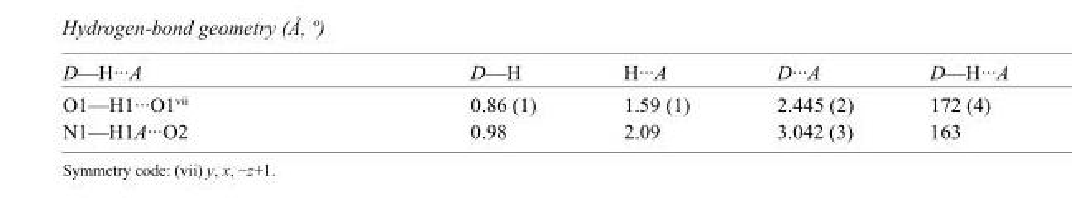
<table><tbody><tr><td>D—H···A</td><td>D—H</td><td>H···A</td><td>D···A</td><td>D—H···A</td></tr><tr><td>O1—H1···O1<sup>vii</sup></td><td>0.86 (1)</td><td>1.59 (1)</td><td>2.445 (2)</td><td>172 (4)</td></tr><tr><td>N1—H1A···O2</td><td>0.98</td><td>2.09</td><td>3.042 (3)</td><td>163</td></tr></tbody></table>